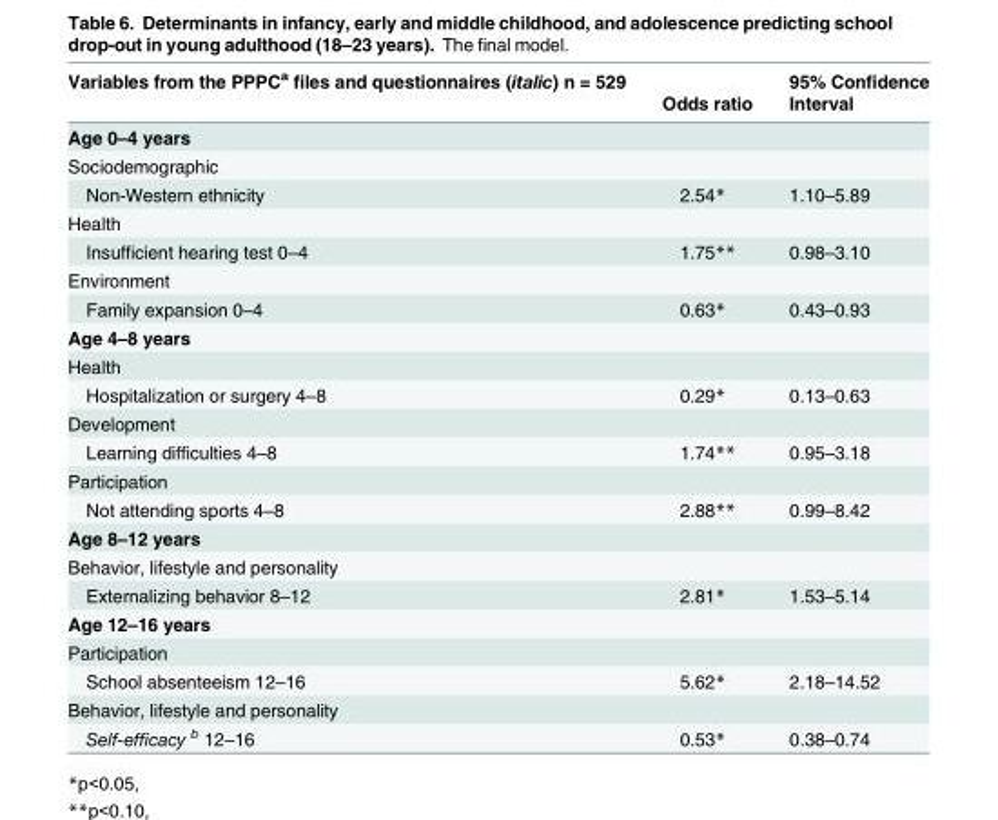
<table><thead><tr><td rowspan="2">Variables from the PPPC<sup>a</sup> files and questionnaires (italic) n = 529</td><td rowspan="2">Odds ratio</td><td rowspan="2">95% Confidence Interval</td></tr><tr></tr></thead><tbody><tr><td colspan="3">Age 0–4 years</td></tr><tr><td colspan="3">Sociodemographic</td></tr><tr><td>Non-Western ethnicity</td><td>2.54*</td><td>1.10–5.89</td></tr><tr><td colspan="3">Health</td></tr><tr><td>Insufficient hearing test 0–4</td><td>1.75**</td><td>0.98–3.10</td></tr><tr><td colspan="3">Environment</td></tr><tr><td>Family expansion 0–4</td><td>0.63*</td><td>0.43–0.93</td></tr><tr><td colspan="3">Age 4–8 years</td></tr><tr><td colspan="3">Health</td></tr><tr><td>Hospitalization or surgery 4–8</td><td>0.29*</td><td>0.13–0.63</td></tr><tr><td colspan="3">Development</td></tr><tr><td>Learning difficulties 4–8</td><td>1.74**</td><td>0.95–3.18</td></tr><tr><td colspan="3">Participation</td></tr><tr><td>Not attending sports 4–8</td><td>2.88**</td><td>0.99–8.42</td></tr><tr><td colspan="3">Age 8–12 years</td></tr><tr><td colspan="3">Behavior, lifestyle and personality</td></tr><tr><td>Externalizing behavior 8–12</td><td>2.81*</td><td>1.53–5.14</td></tr><tr><td colspan="3">Age 12–16 years</td></tr><tr><td colspan="3">Participation</td></tr><tr><td>School absenteeism 12–16</td><td>5.62*</td><td>2.18–14.52</td></tr><tr><td colspan="3">Behavior, lifestyle and personality</td></tr><tr><td>Self-efficacy <sup>b</sup> 12–16</td><td>0.53*</td><td>0.38–0.74</td></tr></tbody></table>